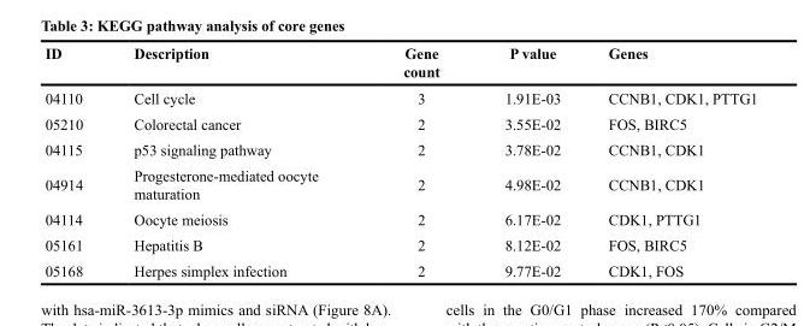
<table><thead><tr><td>ID</td><td>Description</td><td>Gene count</td><td>P value</td><td>Genes</td></tr></thead><tbody><tr><td>04110</td><td>Cell cycle</td><td>3</td><td>1.91E-03</td><td>CCNB1, CDK1, PTTG1</td></tr><tr><td>05210</td><td>Colorectal cancer</td><td>2</td><td>3.55E-02</td><td>FOS, BIRC5</td></tr><tr><td>04115</td><td>p53 signaling pathway</td><td>2</td><td>3.78E-02</td><td>CCNB1, CDK1</td></tr><tr><td>04914</td><td>Progesterone-mediated oocyte maturation</td><td>2</td><td>4.98E-02</td><td>CCNB1, CDK1</td></tr><tr><td>04114</td><td>Oocyte meiosis</td><td>2</td><td>6.17E-02</td><td>CDK1, PTTG1</td></tr><tr><td>05161</td><td>Hepatitis B</td><td>2</td><td>8.12E-02</td><td>FOS, BIRC5</td></tr><tr><td>05168</td><td>Herpes simplex infection</td><td>2</td><td>9.77E-02</td><td>CDK1, FOS</td></tr></tbody></table>